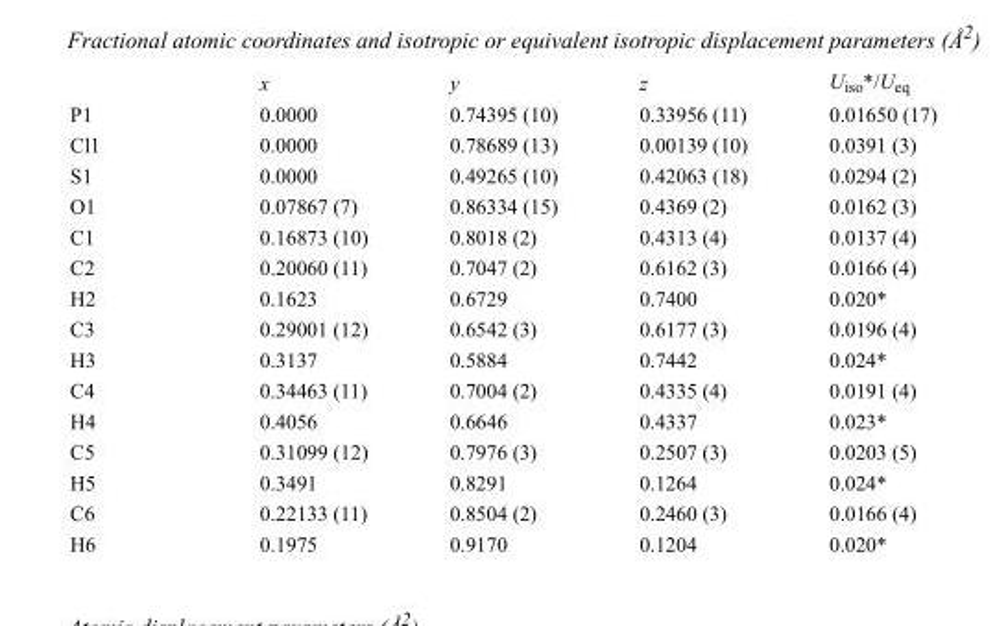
<table><thead><tr><td></td><td>x</td><td>y</td><td>z</td><td>U<sub>iso</sub>*/U<sub>eq</sub></td></tr></thead><tbody><tr><td>P1</td><td>0.0000</td><td>0.74395 (10)</td><td>0.33956 (11)</td><td>0.01650 (17)</td></tr><tr><td>Cl1</td><td>0.0000</td><td>0.78689 (13)</td><td>0.00139 (10)</td><td>0.0391 (3)</td></tr><tr><td>S1</td><td>0.0000</td><td>0.49265 (10)</td><td>0.42063 (18)</td><td>0.0294 (2)</td></tr><tr><td>O1</td><td>0.07867 (7)</td><td>0.86334 (15)</td><td>0.4369 (2)</td><td>0.0162 (3)</td></tr><tr><td>C1</td><td>0.16873 (10)</td><td>0.8018 (2)</td><td>0.4313 (4)</td><td>0.0137 (4)</td></tr><tr><td>C2</td><td>0.20060 (11)</td><td>0.7047 (2)</td><td>0.6162 (3)</td><td>0.0166 (4)</td></tr><tr><td>H2</td><td>0.1623</td><td>0.6729</td><td>0.7400</td><td>0.020*</td></tr><tr><td>C3</td><td>0.29001 (12)</td><td>0.6542 (3)</td><td>0.6177 (3)</td><td>0.0196 (4)</td></tr><tr><td>H3</td><td>0.3137</td><td>0.5884</td><td>0.7442</td><td>0.024*</td></tr><tr><td>C4</td><td>0.34463 (11)</td><td>0.7004 (2)</td><td>0.4335 (4)</td><td>0.0191 (4)</td></tr><tr><td>H4</td><td>0.4056</td><td>0.6646</td><td>0.4337</td><td>0.023*</td></tr><tr><td>C5</td><td>0.31099 (12)</td><td>0.7976 (3)</td><td>0.2507 (3)</td><td>0.0203 (5)</td></tr><tr><td>H5</td><td>0.3491</td><td>0.8291</td><td>0.1264</td><td>0.024*</td></tr><tr><td>C6</td><td>0.22133 (11)</td><td>0.8504 (2)</td><td>0.2460 (3)</td><td>0.0166 (4)</td></tr><tr><td>H6</td><td>0.1975</td><td>0.9170</td><td>0.1204</td><td>0.020*</td></tr></tbody></table>